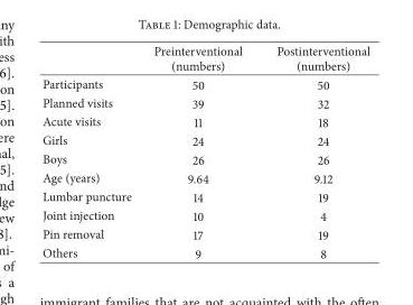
<table><thead><tr><td></td><td>Preinterventional (numbers)</td><td>Postinterventional (numbers)</td></tr></thead><tbody><tr><td>Participants</td><td>50</td><td>50</td></tr><tr><td>Planned visits</td><td>39</td><td>32</td></tr><tr><td>Acute visits</td><td>11</td><td>18</td></tr><tr><td>Girls</td><td>24</td><td>24</td></tr><tr><td>Boys</td><td>26</td><td>26</td></tr><tr><td>Age (years)</td><td>9.64</td><td>9.12</td></tr><tr><td>Lumbar puncture</td><td>14</td><td>19</td></tr><tr><td>Joint injection</td><td>10</td><td>4</td></tr><tr><td>Pin removal</td><td>17</td><td>19</td></tr><tr><td>Others</td><td>9</td><td>8</td></tr></tbody></table>